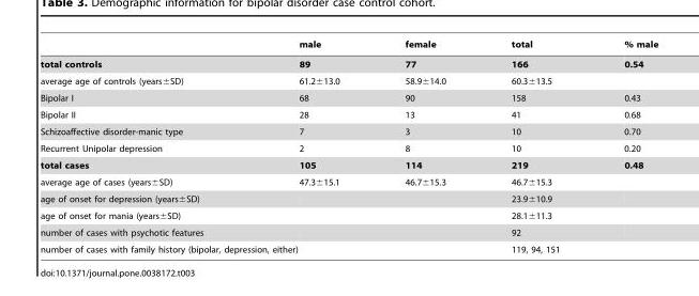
<table><thead><tr><td></td><td>male</td><td>female</td><td>total</td><td>% male</td></tr></thead><tbody><tr><td>total controls</td><td>89</td><td>77</td><td>166</td><td>0.54</td></tr><tr><td>average age of controls (years±SD)</td><td>61.2±13.0</td><td>58.9±14.0</td><td>60.3±13.5</td><td></td></tr><tr><td>Bipolar I</td><td>68</td><td>90</td><td>158</td><td>0.43</td></tr><tr><td>Bipolar II</td><td>28</td><td>13</td><td>41</td><td>0.68</td></tr><tr><td>Schizoaffective disorder-manic type</td><td>7</td><td>3</td><td>10</td><td>0.70</td></tr><tr><td>Recurrent Unipolar depression</td><td>2</td><td>8</td><td>10</td><td>0.20</td></tr><tr><td>total cases</td><td>105</td><td>114</td><td>219</td><td>0.48</td></tr><tr><td>average age of cases (years±SD)</td><td>47.3±15.1</td><td>46.7±15.3</td><td>46.7±15.3</td><td></td></tr><tr><td>age of onset for depression (years±SD)</td><td></td><td></td><td>23.9±10.9</td><td></td></tr><tr><td>age of onset for mania (years±SD)</td><td></td><td></td><td>28.1±11.3</td><td></td></tr><tr><td>number of cases with psychotic features</td><td></td><td></td><td>92</td><td></td></tr><tr><td>number of cases with family history (bipolar, depression, either)</td><td></td><td></td><td>119, 94, 151</td><td></td></tr></tbody></table>